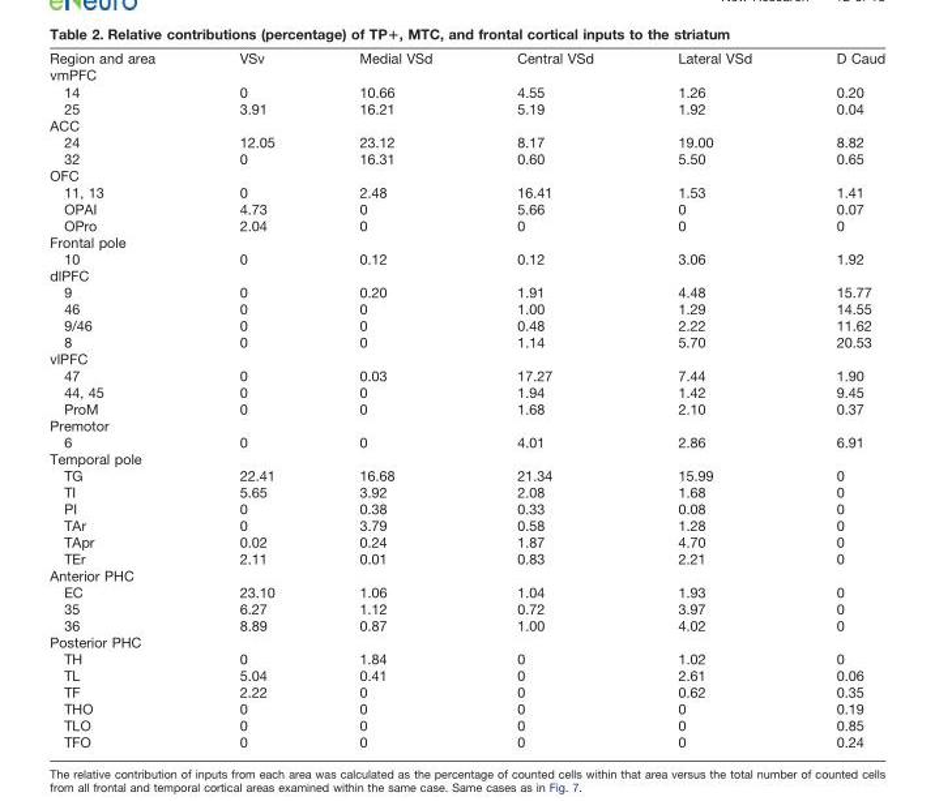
<table><thead><tr><td>Region and area</td><td>VSv</td><td>Medial VSd</td><td>Central VSd</td><td>Lateral VSd</td><td>D Caud</td></tr></thead><tbody><tr><td colspan="6">vmPFC</td></tr><tr><td>14</td><td>0</td><td>10.66</td><td>4.55</td><td>1.26</td><td>0.20</td></tr><tr><td>25</td><td>3.91</td><td>16.21</td><td>5.19</td><td>1.92</td><td>0.04</td></tr><tr><td colspan="6">ACC</td></tr><tr><td>24</td><td>12.05</td><td>23.12</td><td>8.17</td><td>19.00</td><td>8.82</td></tr><tr><td>32</td><td>0</td><td>16.31</td><td>0.60</td><td>5.50</td><td>0.65</td></tr><tr><td colspan="6">OFC</td></tr><tr><td>11, 13</td><td>0</td><td>2.48</td><td>16.41</td><td>1.53</td><td>1.41</td></tr><tr><td>OPAI</td><td>4.73</td><td>0</td><td>5.66</td><td>0</td><td>0.07</td></tr><tr><td>OPro</td><td>2.04</td><td>0</td><td>0</td><td>0</td><td>0</td></tr><tr><td colspan="6">Frontal pole</td></tr><tr><td>10</td><td>0</td><td>0.12</td><td>0.12</td><td>3.06</td><td>1.92</td></tr><tr><td colspan="6">dlPFC</td></tr><tr><td>9</td><td>0</td><td>0.20</td><td>1.91</td><td>4.48</td><td>15.77</td></tr><tr><td>46</td><td>0</td><td>0</td><td>1.00</td><td>1.29</td><td>14.55</td></tr><tr><td>9/46</td><td>0</td><td>0</td><td>0.48</td><td>2.22</td><td>11.62</td></tr><tr><td>8</td><td>0</td><td>0</td><td>1.14</td><td>5.70</td><td>20.53</td></tr><tr><td colspan="6">vlPFC</td></tr><tr><td>47</td><td>0</td><td>0.03</td><td>17.27</td><td>7.44</td><td>1.90</td></tr><tr><td>44, 45</td><td>0</td><td>0</td><td>1.94</td><td>1.42</td><td>9.45</td></tr><tr><td>ProM</td><td>0</td><td>0</td><td>1.68</td><td>2.10</td><td>0.37</td></tr><tr><td colspan="6">Premotor</td></tr><tr><td>6</td><td>0</td><td>0</td><td>4.01</td><td>2.86</td><td>6.91</td></tr><tr><td colspan="6">Temporal pole</td></tr><tr><td>TG</td><td>22.41</td><td>16.68</td><td>21.34</td><td>15.99</td><td>0</td></tr><tr><td>TI</td><td>5.65</td><td>3.92</td><td>2.08</td><td>1.68</td><td>0</td></tr><tr><td>PI</td><td>0</td><td>0.38</td><td>0.33</td><td>0.08</td><td>0</td></tr><tr><td>TAr</td><td>0</td><td>3.79</td><td>0.58</td><td>1.28</td><td>0</td></tr><tr><td>TApr</td><td>0.02</td><td>0.24</td><td>1.87</td><td>4.70</td><td>0</td></tr><tr><td>TEr</td><td>2.11</td><td>0.01</td><td>0.83</td><td>2.21</td><td>0</td></tr><tr><td colspan="6">Anterior PHC</td></tr><tr><td>EC</td><td>23.10</td><td>1.06</td><td>1.04</td><td>1.93</td><td>0</td></tr><tr><td>35</td><td>6.27</td><td>1.12</td><td>0.72</td><td>3.97</td><td>0</td></tr><tr><td>36</td><td>8.89</td><td>0.87</td><td>1.00</td><td>4.02</td><td>0</td></tr><tr><td colspan="6">Posterior PHC</td></tr><tr><td>TH</td><td>0</td><td>1.84</td><td>0</td><td>1.02</td><td>0</td></tr><tr><td>TL</td><td>5.04</td><td>0.41</td><td>0</td><td>2.61</td><td>0.06</td></tr><tr><td>TF</td><td>2.22</td><td>0</td><td>0</td><td>0.62</td><td>0.35</td></tr><tr><td>THO</td><td>0</td><td>0</td><td>0</td><td>0</td><td>0.19</td></tr><tr><td>TLO</td><td>0</td><td>0</td><td>0</td><td>0</td><td>0.85</td></tr><tr><td>TFO</td><td>0</td><td>0</td><td>0</td><td>0</td><td>0.24</td></tr></tbody></table>